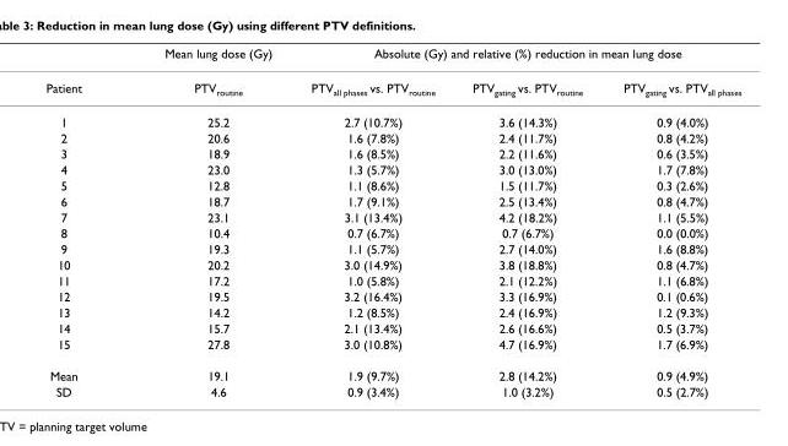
<table><thead><tr><td rowspan="2">Patient</td><td rowspan="2">Mean lung dose (Gy) PTVroutine</td><td colspan="3">Absolute (Gy) and relative (%) reduction in mean lung dose</td></tr><tr><td>PTVall phases vs. PTVroutine</td><td>PTVgating vs. PTVroutine</td><td>PTVgating vs. PTVall phases</td></tr></thead><tbody><tr><td>1</td><td>25.2</td><td>2.7 (10.7%)</td><td>3.6 (14.3%)</td><td>0.9 (4.0%)</td></tr><tr><td>2</td><td>20.6</td><td>1.6 (7.8%)</td><td>2.4 (11.7%)</td><td>0.8 (4.2%)</td></tr><tr><td>3</td><td>18.9</td><td>1.6 (8.5%)</td><td>2.2 (11.6%)</td><td>0.6 (3.5%)</td></tr><tr><td>4</td><td>23.0</td><td>1.3 (5.7%)</td><td>3.0 (13.0%)</td><td>1.7 (7.8%)</td></tr><tr><td>5</td><td>12.8</td><td>1.1 (8.6%)</td><td>1.5 (11.7%)</td><td>0.3 (2.6%)</td></tr><tr><td>6</td><td>18.7</td><td>1.7 (9.1%)</td><td>2.5 (13.4%)</td><td>0.8 (4.7%)</td></tr><tr><td>7</td><td>23.1</td><td>3.1 (13.4%)</td><td>4.2 (18.2%)</td><td>1.1 (5.5%)</td></tr><tr><td>8</td><td>10.4</td><td>0.7 (6.7%)</td><td>0.7 (6.7%)</td><td>0.0 (0.0%)</td></tr><tr><td>9</td><td>19.3</td><td>1.1 (5.7%)</td><td>2.7 (14.0%)</td><td>1.6 (8.8%)</td></tr><tr><td>10</td><td>20.2</td><td>3.0 (14.9%)</td><td>3.8 (18.8%)</td><td>0.8 (4.7%)</td></tr><tr><td>11</td><td>17.2</td><td>1.0 (5.8%)</td><td>2.1 (12.2%)</td><td>1.1 (6.8%)</td></tr><tr><td>12</td><td>19.5</td><td>3.2 (16.4%)</td><td>3.3 (16.9%)</td><td>0.1 (0.6%)</td></tr><tr><td>13</td><td>14.2</td><td>1.2 (8.5%)</td><td>2.4 (16.9%)</td><td>1.2 (9.3%)</td></tr><tr><td>14</td><td>15.7</td><td>2.1 (13.4%)</td><td>2.6 (16.6%)</td><td>0.5 (3.7%)</td></tr><tr><td>15</td><td>27.8</td><td>3.0 (10.8%)</td><td>4.7 (16.9%)</td><td>1.7 (6.9%)</td></tr><tr><td>Mean</td><td>19.1</td><td>1.9 (9.7%)</td><td>2.8 (14.2%)</td><td>0.9 (4.9%)</td></tr><tr><td>SD</td><td>4.6</td><td>0.9 (3.4%)</td><td>1.0 (3.2%)</td><td>0.5 (2.7%)</td></tr></tbody></table>